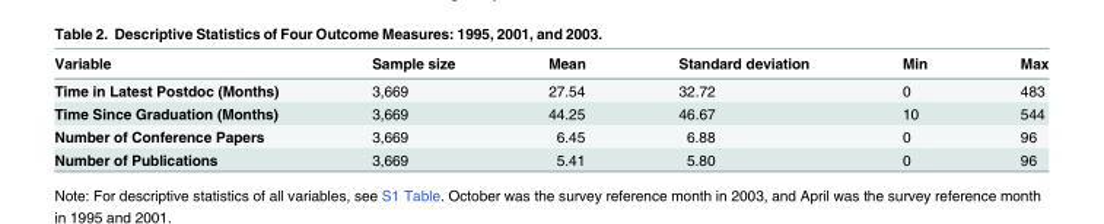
<table><thead><tr><td>Variable</td><td>Sample size</td><td>Mean</td><td>Standard deviation</td><td>Min</td><td>Max</td></tr></thead><tbody><tr><td>Time in Latest Postdoc (Months)</td><td>3,669</td><td>27.54</td><td>32.72</td><td>0</td><td>483</td></tr><tr><td>Time Since Graduation (Months)</td><td>3,669</td><td>44.25</td><td>46.67</td><td>10</td><td>544</td></tr><tr><td>Number of Conference Papers</td><td>3,669</td><td>6.45</td><td>6.88</td><td>0</td><td>96</td></tr><tr><td>Number of Publications</td><td>3,669</td><td>5.41</td><td>5.80</td><td>0</td><td>96</td></tr></tbody></table>